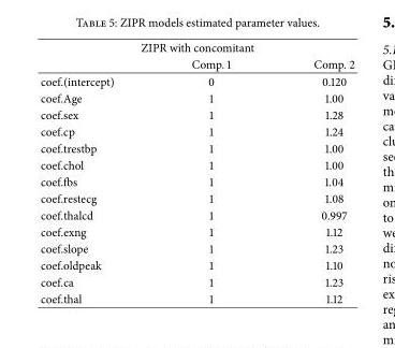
<table><thead><tr><td colspan="3">ZIPR with concomitant</td></tr><tr><td></td><td>Comp. 1</td><td>Comp. 2</td></tr></thead><tbody><tr><td>coef.(intercept)</td><td>0</td><td>0.120</td></tr><tr><td>coef.Age</td><td>1</td><td>1.00</td></tr><tr><td>coef.sex</td><td>1</td><td>1.28</td></tr><tr><td>coef.cp</td><td>1</td><td>1.24</td></tr><tr><td>coef.trestbp</td><td>1</td><td>1.00</td></tr><tr><td>coef.chol</td><td>1</td><td>1.00</td></tr><tr><td>coef.fbs</td><td>1</td><td>1.04</td></tr><tr><td>coef.restecg</td><td>1</td><td>1.08</td></tr><tr><td>coef.thalcd</td><td>1</td><td>0.997</td></tr><tr><td>coef.exng</td><td>1</td><td>1.12</td></tr><tr><td>coef.slope</td><td>1</td><td>1.23</td></tr><tr><td>coef.oldpeak</td><td>1</td><td>1.10</td></tr><tr><td>coef.ca</td><td>1</td><td>1.23</td></tr><tr><td>coef.thal</td><td>1</td><td>1.12</td></tr></tbody></table>